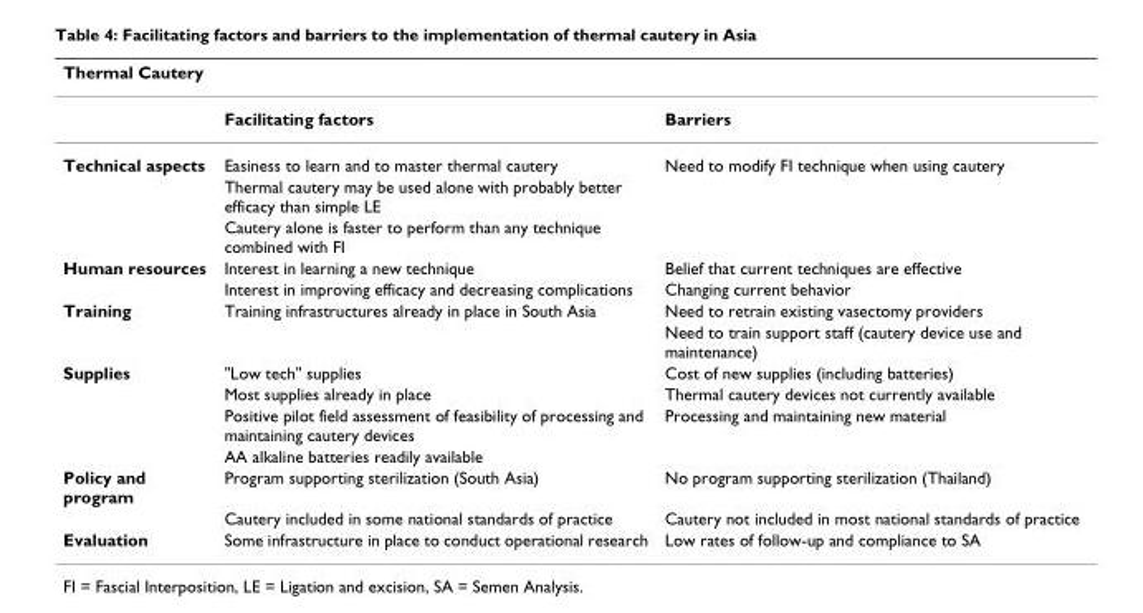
<table><thead><tr><td>Thermal Cautery</td><td></td><td></td></tr></thead><tbody><tr><td></td><td>Facilitating factors</td><td>Barriers</td></tr><tr><td rowspan="3">Technical aspects</td><td>Easiness to learn and to master thermal cautery</td><td>Need to modify FI technique when using cautery</td></tr><tr><td>Thermal cautery may be used alone with probably better efficacy than simple LE</td><td></td></tr><tr><td>Cautery alone is faster to perform than any technique combined with FI</td><td></td></tr><tr><td rowspan="2">Human resources</td><td>Interest in learning a new technique</td><td>Belief that current techniques are effective</td></tr><tr><td>Interest in improving efficacy and decreasing complications</td><td>Changing current behavior</td></tr><tr><td rowspan="2">Training</td><td>Training infrastructures already in place in South Asia</td><td>Need to retrain existing vasectomy providers</td></tr><tr><td></td><td>Need to train support staff (cautery device use and maintenance)</td></tr><tr><td rowspan="4">Supplies</td><td>&quot;Low tech&quot; supplies</td><td>Cost of new supplies (including batteries)</td></tr><tr><td>Most supplies already in place</td><td>Thermal cautery devices not currently available</td></tr><tr><td>Positive pilot field assessment of feasibility of processing and maintaining cautery devices</td><td>Processing and maintaining new material</td></tr><tr><td>AA alkaline batteries readily available</td><td></td></tr><tr><td rowspan="2">Policy and program</td><td>Program supporting sterilization (South Asia)</td><td>No program supporting sterilization (Thailand)</td></tr><tr><td>Cautery included in some national standards of practice</td><td>Cautery not included in most national standards of practice</td></tr><tr><td>Evaluation</td><td>Some infrastructure in place to conduct operational research</td><td>Low rates of follow-up and compliance to SA</td></tr></tbody></table>